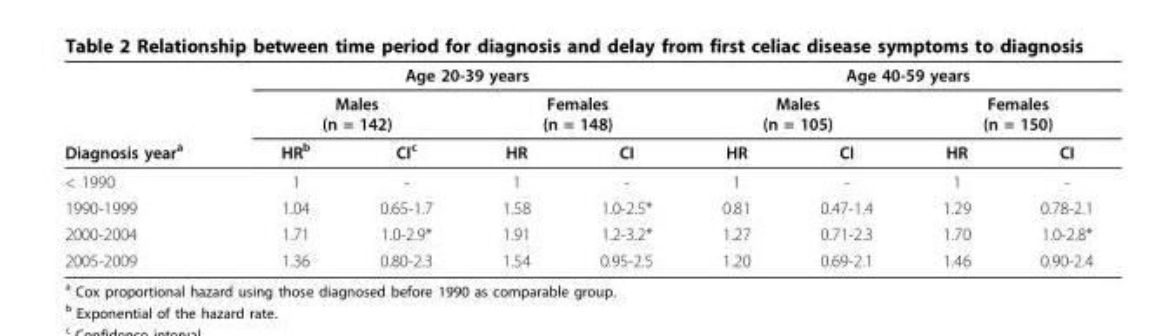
<table><thead><tr><td rowspan="3">Diagnosis year<sup>a</sup></td><td colspan="4">Age 20-39 years</td><td colspan="4">Age 40-59 years</td></tr><tr><td colspan="2">Males (n = 142)</td><td colspan="2">Females (n = 148)</td><td colspan="2">Males (n = 105)</td><td colspan="2">Females (n = 150)</td></tr><tr><td>HR<sup>b</sup></td><td>CI<sup>c</sup></td><td>HR</td><td>CI</td><td>HR</td><td>CI</td><td>HR</td><td>CI</td></tr></thead><tbody><tr><td>&lt; 1990</td><td>1</td><td>-</td><td>1</td><td>-</td><td>1</td><td>-</td><td>1</td><td>-</td></tr><tr><td>1990-1999</td><td>1.04</td><td>0.65-1.7</td><td>1.58</td><td>1.0-2.5*</td><td>0.81</td><td>0.47-1.4</td><td>1.29</td><td>0.78-2.1</td></tr><tr><td>2000-2004</td><td>1.71</td><td>1.0-2.9*</td><td>1.91</td><td>1.2-3.2*</td><td>1.27</td><td>0.71-2.3</td><td>1.70</td><td>1.0-2.8*</td></tr><tr><td>2005-2009</td><td>1.36</td><td>0.80-2.3</td><td>1.54</td><td>0.95-2.5</td><td>1.20</td><td>0.69-2.1</td><td>1.46</td><td>0.90-2.4</td></tr></tbody></table>